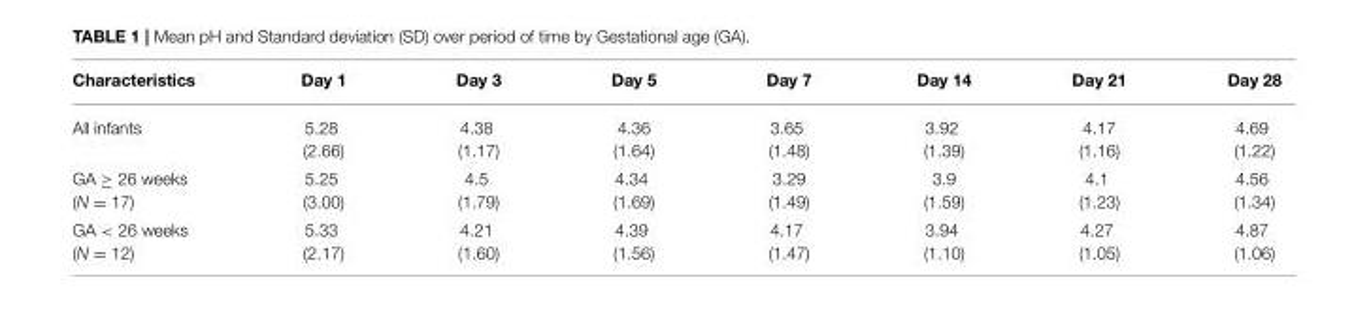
<table><thead><tr><td>Characteristics</td><td>Day 1</td><td>Day 3</td><td>Day 5</td><td>Day 7</td><td>Day 14</td><td>Day 21</td><td>Day 28</td></tr></thead><tbody><tr><td>All infants</td><td>5.28 (2.66)</td><td>4.38 (1.17)</td><td>4.36 (1.64)</td><td>3.65 (1.48)</td><td>3.92 (1.39)</td><td>4.17 (1.16)</td><td>4.69 (1.22)</td></tr><tr><td>GA ≥ 26 weeks (N = 17)</td><td>5.25 (3.00)</td><td>4.5 (1.79)</td><td>4.34 (1.69)</td><td>3.29 (1.49)</td><td>3.9 (1.59)</td><td>4.1 (1.23)</td><td>4.56 (1.34)</td></tr><tr><td>GA &lt; 26 weeks (N = 12)</td><td>5.33 (2.17)</td><td>4.21 (1.60)</td><td>4.39 (1.56)</td><td>4.17 (1.47)</td><td>3.94 (1.10)</td><td>4.27 (1.05)</td><td>4.87 (1.06)</td></tr></tbody></table>